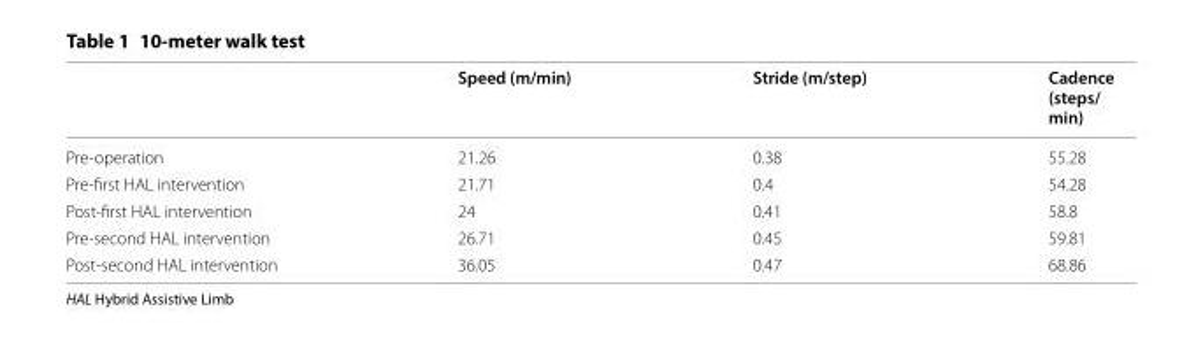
<table><thead><tr><td></td><td>Speed (m/min)</td><td>Stride (m/step)</td><td>Cadence (steps/ min)</td></tr></thead><tbody><tr><td>Pre-operation</td><td>21.26</td><td>0.38</td><td>55.28</td></tr><tr><td>Pre-first HAL intervention</td><td>21.71</td><td>0.4</td><td>54.28</td></tr><tr><td>Post-first HAL intervention</td><td>24</td><td>0.41</td><td>58.8</td></tr><tr><td>Pre-second HAL intervention</td><td>26.71</td><td>0.45</td><td>59.81</td></tr><tr><td>Post-second HAL intervention</td><td>36.05</td><td>0.47</td><td>68.86</td></tr></tbody></table>